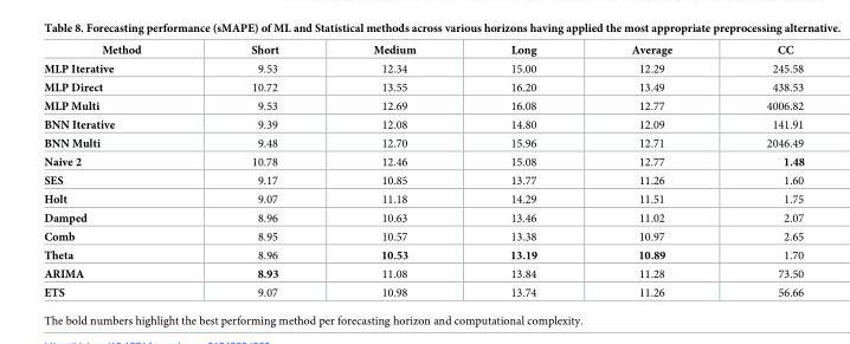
<table><thead><tr><td>Method</td><td>Short</td><td>Medium</td><td>Long</td><td>Average</td><td>CC</td></tr></thead><tbody><tr><td>MLP Iterative</td><td>9.53</td><td>12.34</td><td>15.00</td><td>12.29</td><td>245.58</td></tr><tr><td>MLP Direct</td><td>10.72</td><td>13.55</td><td>16.20</td><td>13.49</td><td>438.53</td></tr><tr><td>MLP Multi</td><td>9.53</td><td>12.69</td><td>16.08</td><td>12.77</td><td>4006.82</td></tr><tr><td>BNN Iterative</td><td>9.39</td><td>12.08</td><td>14.80</td><td>12.09</td><td>141.91</td></tr><tr><td>BNN Multi</td><td>9.48</td><td>12.70</td><td>15.96</td><td>12.71</td><td>2046.49</td></tr><tr><td>Naive 2</td><td>10.78</td><td>12.46</td><td>15.08</td><td>12.77</td><td>1.48</td></tr><tr><td>SES</td><td>9.17</td><td>10.85</td><td>13.77</td><td>11.26</td><td>1.60</td></tr><tr><td>Holt</td><td>9.07</td><td>11.18</td><td>14.29</td><td>11.51</td><td>1.75</td></tr><tr><td>Damped</td><td>8.96</td><td>10.63</td><td>13.46</td><td>11.02</td><td>2.07</td></tr><tr><td>Comb</td><td>8.95</td><td>10.57</td><td>13.38</td><td>10.97</td><td>2.65</td></tr><tr><td>Theta</td><td>8.96</td><td>10.53</td><td>13.19</td><td>10.89</td><td>1.70</td></tr><tr><td>ARIMA</td><td>8.93</td><td>11.08</td><td>13.84</td><td>11.28</td><td>73.50</td></tr><tr><td>ETS</td><td>9.07</td><td>10.98</td><td>13.74</td><td>11.26</td><td>56.66</td></tr></tbody></table>